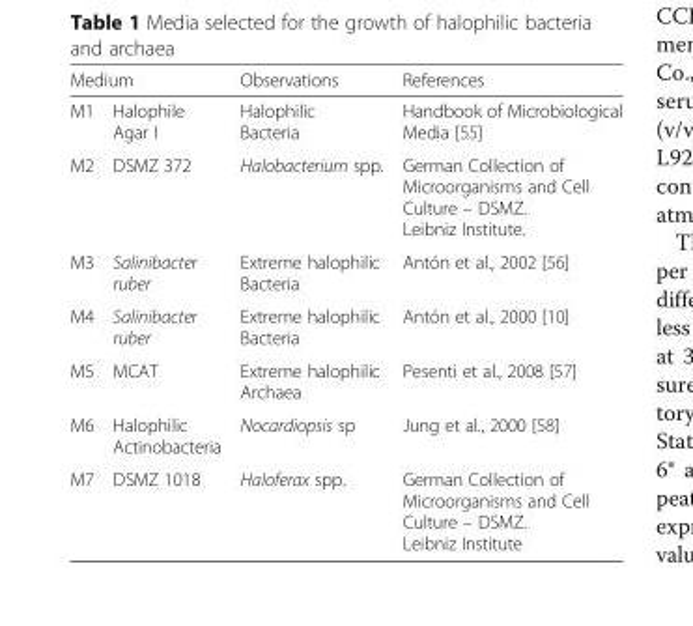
<table><thead><tr><td colspan="2">Medium</td><td rowspan="2">Observations Halophilic Bacteria</td><td rowspan="2">References Handbook of Microbiological Media [55]</td></tr><tr><td>M1</td><td>Halophile Agar I</td></tr></thead><tbody><tr><td>M2</td><td>DSMZ 372</td><td>Halobacterium spp.</td><td>German Collection of Microorganisms and Cell Culture – DSMZ. Leibniz Institute.</td></tr><tr><td>M3</td><td>Salinibacter ruber</td><td>Extreme halophilic Bacteria</td><td>Antón et al., 2002 [56]</td></tr><tr><td>M4</td><td>Salinibacter ruber</td><td>Extreme halophilic Bacteria</td><td>Antón et al., 2000 [10]</td></tr><tr><td>M5</td><td>MCAT</td><td>Extreme halophilic Archaea</td><td>Pesenti et al., 2008 [57]</td></tr><tr><td>M6</td><td>Halophilic Actinobacteria</td><td>Nocardiopsis sp</td><td>Jung et al., 2000 [58]</td></tr><tr><td>M7</td><td>DSMZ 1018</td><td>Haloferax spp.</td><td>German Collection of Microorganisms and Cell Culture – DSMZ. Leibniz Institute</td></tr></tbody></table>